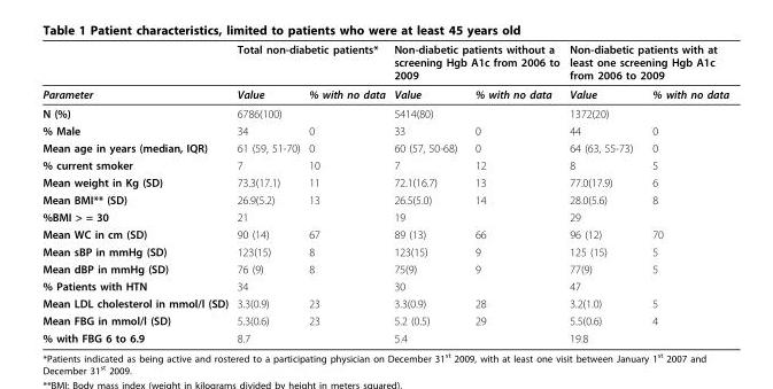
<table><thead><tr><td rowspan="2">Parameter</td><td colspan="2">Total non-diabetic patients*</td><td colspan="2">Non-diabetic patients without a screening Hgb A1c from 2006 to 2009</td><td colspan="2">Non-diabetic patients with at least one screening Hgb A1c from 2006 to 2009</td></tr><tr><td>Value</td><td>% with no data</td><td>Value</td><td>% with no data</td><td>Value</td><td>% with no data</td></tr></thead><tbody><tr><td>N (%)</td><td>6786(100)</td><td></td><td>5414(80)</td><td></td><td>1372(20)</td><td></td></tr><tr><td>% Male</td><td>34</td><td>0</td><td>33</td><td>0</td><td>44</td><td>0</td></tr><tr><td>Mean age in years (median, IQR)</td><td>61 (59, 51-70)</td><td>0</td><td>60 (57, 50-68)</td><td>0</td><td>64 (63, 55-73)</td><td>0</td></tr><tr><td>% current smoker</td><td>7</td><td>10</td><td>7</td><td>12</td><td>8</td><td>5</td></tr><tr><td>Mean weight in Kg (SD)</td><td>73.3(17.1)</td><td>11</td><td>72.1(16.7)</td><td>13</td><td>77.0(17.9)</td><td>6</td></tr><tr><td>Mean BMI** (SD)</td><td>26.9(5.2)</td><td>13</td><td>26.5(5.0)</td><td>14</td><td>28.0(5.6)</td><td>8</td></tr><tr><td>%BMI &gt; = 30</td><td>21</td><td></td><td>19</td><td></td><td>29</td><td></td></tr><tr><td>Mean WC in cm (SD)</td><td>90 (14)</td><td>67</td><td>89 (13)</td><td>66</td><td>96 (12)</td><td>70</td></tr><tr><td>Mean sBP in mmHg (SD)</td><td>123(15)</td><td>8</td><td>123(15)</td><td>9</td><td>125 (15)</td><td>5</td></tr><tr><td>Mean dBP in mmHg (SD)</td><td>76 (9)</td><td>8</td><td>75(9)</td><td>9</td><td>77(9)</td><td>5</td></tr><tr><td>% Patients with HTN</td><td>34</td><td></td><td>30</td><td></td><td>47</td><td></td></tr><tr><td>Mean LDL cholesterol in mmol/l (SD)</td><td>3.3(0.9)</td><td>23</td><td>3.3(0.9)</td><td>28</td><td>3.2(1.0)</td><td>5</td></tr><tr><td>Mean FBG in mmol/l (SD)</td><td>5.3(0.6)</td><td>23</td><td>5.2 (0.5)</td><td>29</td><td>5.5(0.6)</td><td>4</td></tr><tr><td>% with FBG 6 to 6.9</td><td>8.7</td><td></td><td>5.4</td><td></td><td>19.8</td><td></td></tr></tbody></table>